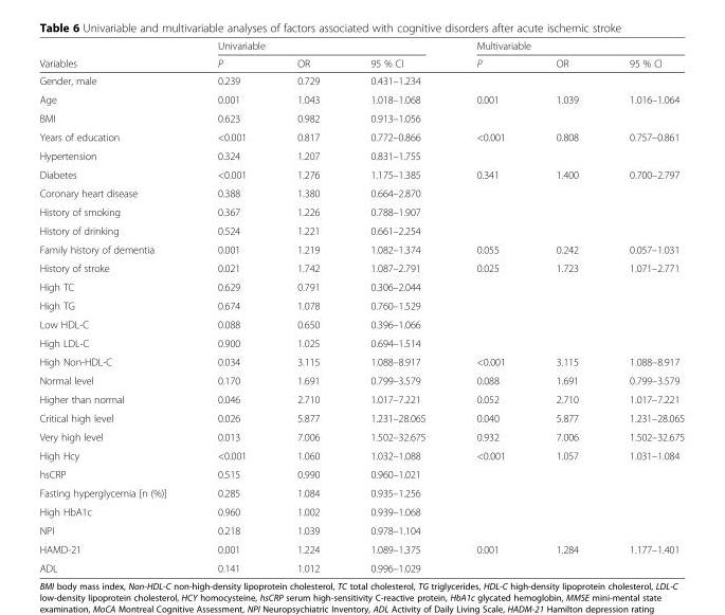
<table><thead><tr><td rowspan="2">Variables</td><td colspan="3">Univariable</td><td colspan="3">Multivariable</td></tr><tr><td>P</td><td>OR</td><td>95 % CI</td><td>P</td><td>OR</td><td>95 % CI</td></tr></thead><tbody><tr><td>Gender, male</td><td>0.239</td><td>0.729</td><td>0.431–1.234</td><td></td><td></td><td></td></tr><tr><td>Age</td><td>0.001</td><td>1.043</td><td>1.018–1.068</td><td>0.001</td><td>1.039</td><td>1.016–1.064</td></tr><tr><td>BMI</td><td>0.623</td><td>0.982</td><td>0.913–1.056</td><td></td><td></td><td></td></tr><tr><td>Years of education</td><td>&lt;0.001</td><td>0.817</td><td>0.772–0.866</td><td>&lt;0.001</td><td>0.808</td><td>0.757–0.861</td></tr><tr><td>Hypertension</td><td>0.324</td><td>1.207</td><td>0.831–1.755</td><td></td><td></td><td></td></tr><tr><td>Diabetes</td><td>&lt;0.001</td><td>1.276</td><td>1.175–1.385</td><td>0.341</td><td>1.400</td><td>0.700–2.797</td></tr><tr><td>Coronary heart disease</td><td>0.388</td><td>1.380</td><td>0.664–2.870</td><td></td><td></td><td></td></tr><tr><td>History of smoking</td><td>0.367</td><td>1.226</td><td>0.788–1.907</td><td></td><td></td><td></td></tr><tr><td>History of drinking</td><td>0.524</td><td>1.221</td><td>0.661–2.254</td><td></td><td></td><td></td></tr><tr><td>Family history of dementia</td><td>0.001</td><td>1.219</td><td>1.082–1.374</td><td>0.055</td><td>0.242</td><td>0.057–1.031</td></tr><tr><td>History of stroke</td><td>0.021</td><td>1.742</td><td>1.087–2.791</td><td>0.025</td><td>1.723</td><td>1.071–2.771</td></tr><tr><td>High TC</td><td>0.629</td><td>0.791</td><td>0.306–2.044</td><td></td><td></td><td></td></tr><tr><td>High TG</td><td>0.674</td><td>1.078</td><td>0.760–1.529</td><td></td><td></td><td></td></tr><tr><td>Low HDL-C</td><td>0.088</td><td>0.650</td><td>0.396–1.066</td><td></td><td></td><td></td></tr><tr><td>High LDL-C</td><td>0.900</td><td>1.025</td><td>0.694–1.514</td><td></td><td></td><td></td></tr><tr><td>High Non-HDL-C</td><td>0.034</td><td>3.115</td><td>1.088–8.917</td><td>&lt;0.001</td><td>3.115</td><td>1.088–8.917</td></tr><tr><td>Normal level</td><td>0.170</td><td>1.691</td><td>0.799–3.579</td><td>0.088</td><td>1.691</td><td>0.799–3.579</td></tr><tr><td>Higher than normal</td><td>0.046</td><td>2.710</td><td>1.017–7.221</td><td>0.052</td><td>2.710</td><td>1.017–7.221</td></tr><tr><td>Critical high level</td><td>0.026</td><td>5.877</td><td>1.231–28.065</td><td>0.040</td><td>5.877</td><td>1.231–28.065</td></tr><tr><td>Very high level</td><td>0.013</td><td>7.006</td><td>1.502–32.675</td><td>0.932</td><td>7.006</td><td>1.502–32.675</td></tr><tr><td>High Hcy</td><td>&lt;0.001</td><td>1.060</td><td>1.032–1.088</td><td>&lt;0.001</td><td>1.057</td><td>1.031–1.084</td></tr><tr><td>hsCRP</td><td>0.515</td><td>0.990</td><td>0.960–1.021</td><td></td><td></td><td></td></tr><tr><td>Fasting hyperglycemia [n (%)]</td><td>0.285</td><td>1.084</td><td>0.935–1.256</td><td></td><td></td><td></td></tr><tr><td>High HbA1c</td><td>0.960</td><td>1.002</td><td>0.939–1.068</td><td></td><td></td><td></td></tr><tr><td>NPI</td><td>0.218</td><td>1.039</td><td>0.978–1.104</td><td></td><td></td><td></td></tr><tr><td>HAMD-21</td><td>0.001</td><td>1.224</td><td>1.089–1.375</td><td>0.001</td><td>1.284</td><td>1.177–1.401</td></tr><tr><td>ADL</td><td>0.141</td><td>1.012</td><td>0.996–1.029</td><td></td><td></td><td></td></tr></tbody></table>